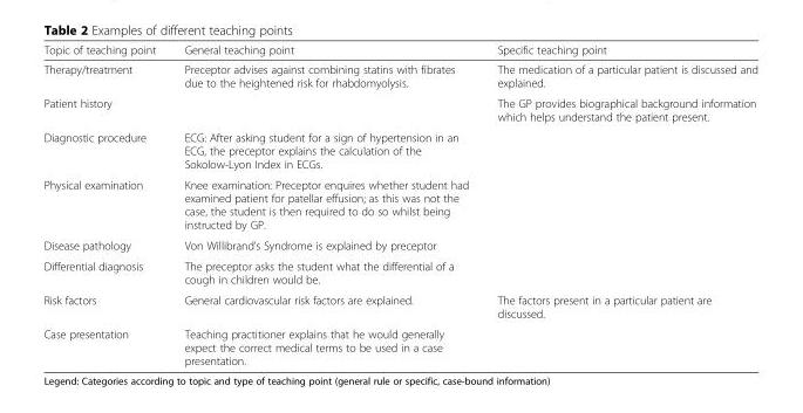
<table><thead><tr><td>Topic of teaching point</td><td>General teaching point</td><td>Specific teaching point</td></tr></thead><tbody><tr><td>Therapy/treatment</td><td>Preceptor advises against combining statins with fibrates due to the heightened risk for rhabdomyolysis.</td><td>The medication of a particular patient is discussed and explained.</td></tr><tr><td>Patient history</td><td></td><td>The GP provides biographical background information which helps understand the patient present.</td></tr><tr><td>Diagnostic procedure</td><td>ECG: After asking student for a sign of hypertension in an ECG, the preceptor explains the calculation of the Sokolow-Lyon Index in ECGs.</td><td></td></tr><tr><td>Physical examination</td><td>Knee examination: Preceptor enquires whether student had examined patient for patellar effusion; as this was not the case, the student is then required to do so whilst being instructed by GP.</td><td></td></tr><tr><td>Disease pathology</td><td>Von Willibrand’s Syndrome is explained by preceptor</td><td></td></tr><tr><td>Differential diagnosis</td><td>The preceptor asks the student what the differential of a cough in children would be.</td><td></td></tr><tr><td>Risk factors</td><td>General cardiovascular risk factors are explained.</td><td>The factors present in a particular patient are discussed.</td></tr><tr><td>Case presentation</td><td>Teaching practitioner explains that he would generally expect the correct medical terms to be used in a case presentation.</td><td></td></tr></tbody></table>